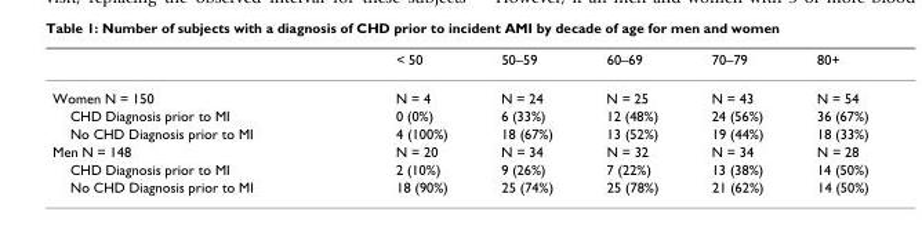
<table><thead><tr><td></td><td>&lt; 50</td><td>50–59</td><td>60–69</td><td>70–79</td><td>80+</td></tr></thead><tbody><tr><td>Women N = 150</td><td>N = 4</td><td>N = 24</td><td>N = 25</td><td>N = 43</td><td>N = 54</td></tr><tr><td>CHD Diagnosis prior to MI</td><td>0 (0%)</td><td>6 (33%)</td><td>12 (48%)</td><td>24 (56%)</td><td>36 (67%)</td></tr><tr><td>No CHD Diagnosis prior to MI</td><td>4 (100%)</td><td>18 (67%)</td><td>13 (52%)</td><td>19 (44%)</td><td>18 (33%)</td></tr><tr><td>Men N = 148</td><td>N = 20</td><td>N = 34</td><td>N = 32</td><td>N = 34</td><td>N = 28</td></tr><tr><td>CHD Diagnosis prior to MI</td><td>2 (10%)</td><td>9 (26%)</td><td>7 (22%)</td><td>13 (38%)</td><td>14 (50%)</td></tr><tr><td>No CHD Diagnosis prior to MI</td><td>18 (90%)</td><td>25 (74%)</td><td>25 (78%)</td><td>21 (62%)</td><td>14 (50%)</td></tr></tbody></table>